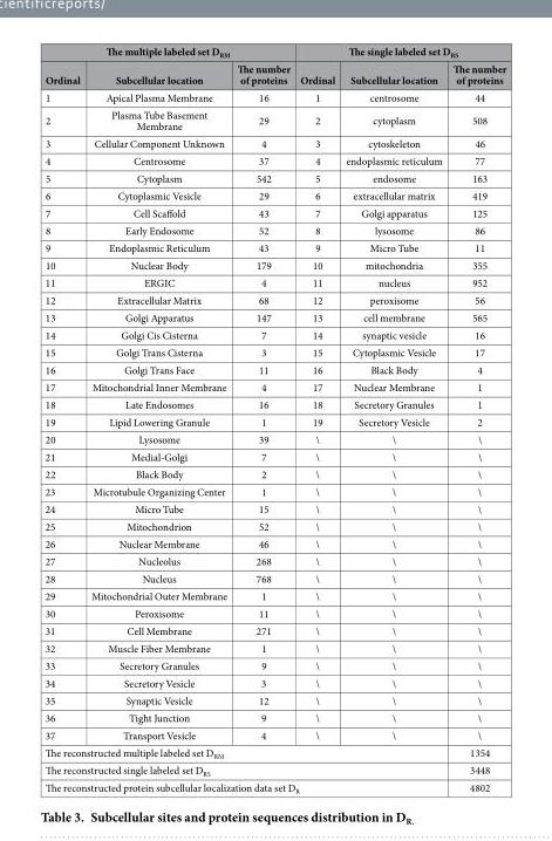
<table><thead><tr><td colspan="3">The multiple labeled set D<sub>RM</sub></td><td colspan="3">The single labeled set D<sub>RS</sub></td></tr><tr><td>Ordinal</td><td>Subcellular location</td><td>The number of proteins</td><td>Ordinal</td><td>Subcellular location</td><td>The number of proteins</td></tr></thead><tbody><tr><td>1</td><td>Apical Plasma Membrane</td><td>16</td><td>1</td><td>centrosome</td><td>44</td></tr><tr><td>2</td><td>Plasma Tube Basement Membrane</td><td>29</td><td>2</td><td>cytoplasm</td><td>508</td></tr><tr><td>3</td><td>Cellular Component Unknown</td><td>4</td><td>3</td><td>cytoskeleton</td><td>46</td></tr><tr><td>4</td><td>Centrosome</td><td>37</td><td>4</td><td>endoplasmic reticulum</td><td>77</td></tr><tr><td>5</td><td>Cytoplasm</td><td>542</td><td>5</td><td>endosome</td><td>163</td></tr><tr><td>6</td><td>Cytoplasmic Vesicle</td><td>29</td><td>6</td><td>extracellular matrix</td><td>419</td></tr><tr><td>7</td><td>Cell Scaffold</td><td>43</td><td>7</td><td>Golgi apparatus</td><td>125</td></tr><tr><td>8</td><td>Early Endosome</td><td>52</td><td>8</td><td>lysosome</td><td>86</td></tr><tr><td>9</td><td>Endoplasmic Reticulum</td><td>43</td><td>9</td><td>Micro Tube</td><td>11</td></tr><tr><td>10</td><td>Nuclear Body</td><td>179</td><td>10</td><td>mitochondria</td><td>355</td></tr><tr><td>11</td><td>ERGIC</td><td>4</td><td>11</td><td>nucleus</td><td>952</td></tr><tr><td>12</td><td>Extracellular Matrix</td><td>68</td><td>12</td><td>peroxisome</td><td>56</td></tr><tr><td>13</td><td>Golgi Apparatus</td><td>147</td><td>13</td><td>cell membrane</td><td>565</td></tr><tr><td>14</td><td>Golgi Cis Cisterna</td><td>7</td><td>14</td><td>synaptic vesicle</td><td>16</td></tr><tr><td>15</td><td>Golgi Trans Cisterna</td><td>3</td><td>15</td><td>Cytoplasmic Vesicle</td><td>17</td></tr><tr><td>16</td><td>Golgi Trans Face</td><td>11</td><td>16</td><td>Black Body</td><td>4</td></tr><tr><td>17</td><td>Mitochondrial Inner Membrane</td><td>4</td><td>17</td><td>Nuclear Membrane</td><td>1</td></tr><tr><td>18</td><td>Late Endosomes</td><td>16</td><td>18</td><td>Secretory Granules</td><td>1</td></tr><tr><td>19</td><td>Lipid Lowering Granule</td><td>1</td><td>19</td><td>Secretory Vesicle</td><td>2</td></tr><tr><td>20</td><td>Lysosome</td><td>39</td><td>\</td><td>\</td><td>\</td></tr><tr><td>21</td><td>Medial-Golgi</td><td>7</td><td>\</td><td>\</td><td>\</td></tr><tr><td>22</td><td>Black Body</td><td>2</td><td>\</td><td>\</td><td>\</td></tr><tr><td>23</td><td>Microtubule Organizing Center</td><td>1</td><td>\</td><td>\</td><td>\</td></tr><tr><td>24</td><td>Micro Tube</td><td>15</td><td>\</td><td>\</td><td>\</td></tr><tr><td>25</td><td>Mitochondrion</td><td>52</td><td>\</td><td>\</td><td>\</td></tr><tr><td>26</td><td>Nuclear Membrane</td><td>46</td><td>\</td><td>\</td><td>\</td></tr><tr><td>27</td><td>Nucleolus</td><td>268</td><td>\</td><td>\</td><td>\</td></tr><tr><td>28</td><td>Nucleus</td><td>768</td><td>\</td><td>\</td><td>\</td></tr><tr><td>29</td><td>Mitochondrial Outer Membrane</td><td>1</td><td>\</td><td>\</td><td>\</td></tr><tr><td>30</td><td>Peroxisome</td><td>11</td><td>\</td><td>\</td><td>\</td></tr><tr><td>31</td><td>Cell Membrane</td><td>271</td><td>\</td><td>\</td><td>\</td></tr><tr><td>32</td><td>Muscle Fiber Membrane</td><td>1</td><td>\</td><td>\</td><td>\</td></tr><tr><td>33</td><td>Secretory Granules</td><td>9</td><td>\</td><td>\</td><td>\</td></tr><tr><td>34</td><td>Secretory Vesicle</td><td>3</td><td>\</td><td>\</td><td>\</td></tr><tr><td>35</td><td>Synaptic Vesicle</td><td>12</td><td>\</td><td>\</td><td>\</td></tr><tr><td>36</td><td>Tight Junction</td><td>9</td><td>\</td><td>\</td><td>\</td></tr><tr><td>37</td><td>Transport Vesicle</td><td>4</td><td>\</td><td>\</td><td>\</td></tr><tr><td colspan="5">The reconstructed multiple labeled set D<sub>RM</sub></td><td>1354</td></tr><tr><td colspan="5">The reconstructed single labeled set D<sub>RS</sub></td><td>3448</td></tr><tr><td colspan="5">The reconstructed protein subcellular localization data set D<sub>R</sub></td><td>4802</td></tr></tbody></table>